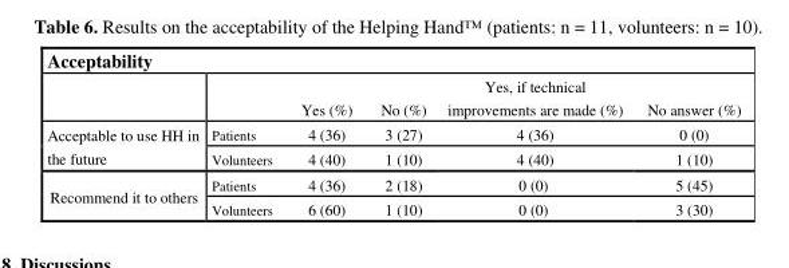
<table><thead><tr><td colspan="6">Acceptability</td></tr><tr><td></td><td></td><td>Yes (%)</td><td>No (%)</td><td>Yes, if technical improvements are made (%)</td><td>No answer (%)</td></tr></thead><tbody><tr><td rowspan="2">Acceptable to use HH in the future</td><td>Patients</td><td>4 (36)</td><td>3 (27)</td><td>4 (36)</td><td>0 (0)</td></tr><tr><td>Volunteers</td><td>4 (40)</td><td>1 (10)</td><td>4 (40)</td><td>1 (10)</td></tr><tr><td rowspan="2">Recommend it to others</td><td>Patients</td><td>4 (36)</td><td>2 (18)</td><td>0 (0)</td><td>5 (45)</td></tr><tr><td>Volunteers</td><td>6 (60)</td><td>1 (10)</td><td>0 (0)</td><td>3 (30)</td></tr></tbody></table>